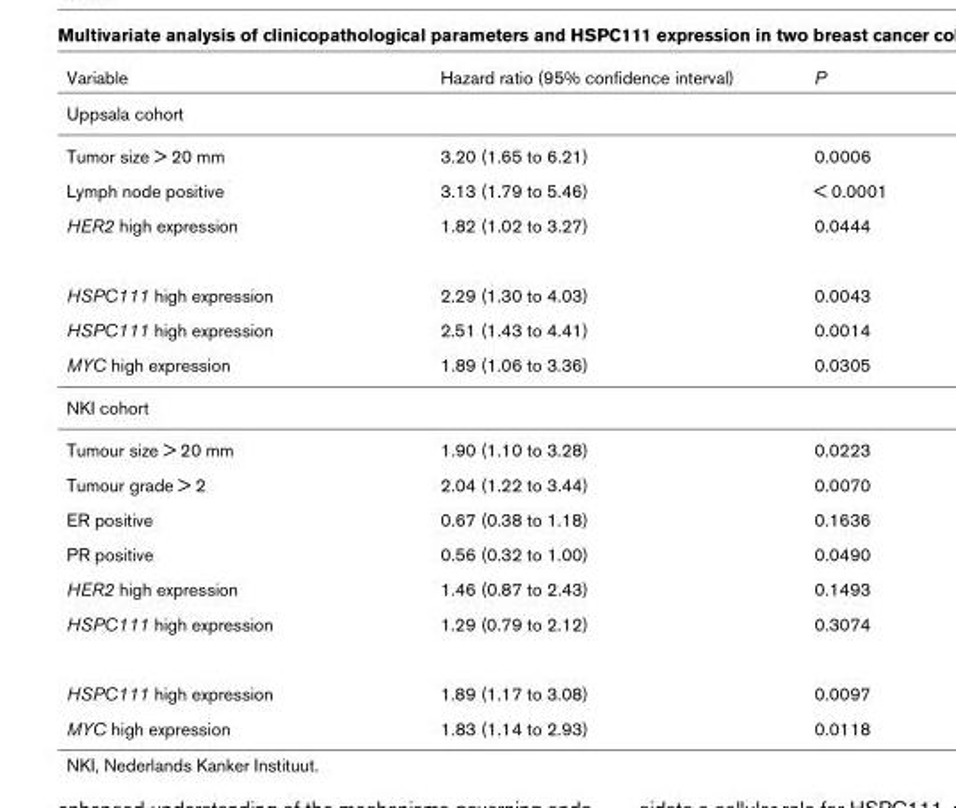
<table><thead><tr><td>Variable</td><td>Hazard ratio (95% confidence interval)</td><td>P</td></tr></thead><tbody><tr><td colspan="3">Uppsala cohort</td></tr><tr><td>Tumor size &gt; 20 mm</td><td>3.20 (1.65 to 6.21)</td><td>0.0006</td></tr><tr><td>Lymph node positive</td><td>3.13 (1.79 to 5.46)</td><td>&lt; 0.0001</td></tr><tr><td>HER2 high expression</td><td>1.82 (1.02 to 3.27)</td><td>0.0444</td></tr><tr><td>HSPC111 high expression</td><td>2.29 (1.30 to 4.03)</td><td>0.0043</td></tr><tr><td>HSPC111 high expression</td><td>2.51 (1.43 to 4.41)</td><td>0.0014</td></tr><tr><td>MYC high expression</td><td>1.89 (1.06 to 3.36)</td><td>0.0305</td></tr><tr><td colspan="3">NKI cohort</td></tr><tr><td>Tumour size &gt; 20 mm</td><td>1.90 (1.10 to 3.28)</td><td>0.0223</td></tr><tr><td>Tumour grade &gt; 2</td><td>2.04 (1.22 to 3.44)</td><td>0.0070</td></tr><tr><td>ER positive</td><td>0.67 (0.38 to 1.18)</td><td>0.1636</td></tr><tr><td>PR positive</td><td>0.56 (0.32 to 1.00)</td><td>0.0490</td></tr><tr><td>HER2 high expression</td><td>1.46 (0.87 to 2.43)</td><td>0.1493</td></tr><tr><td>HSPC111 high expression</td><td>1.29 (0.79 to 2.12)</td><td>0.3074</td></tr><tr><td>HSPC111 high expression</td><td>1.89 (1.17 to 3.08)</td><td>0.0097</td></tr><tr><td>MYC high expression</td><td>1.83 (1.14 to 2.93)</td><td>0.0118</td></tr></tbody></table>